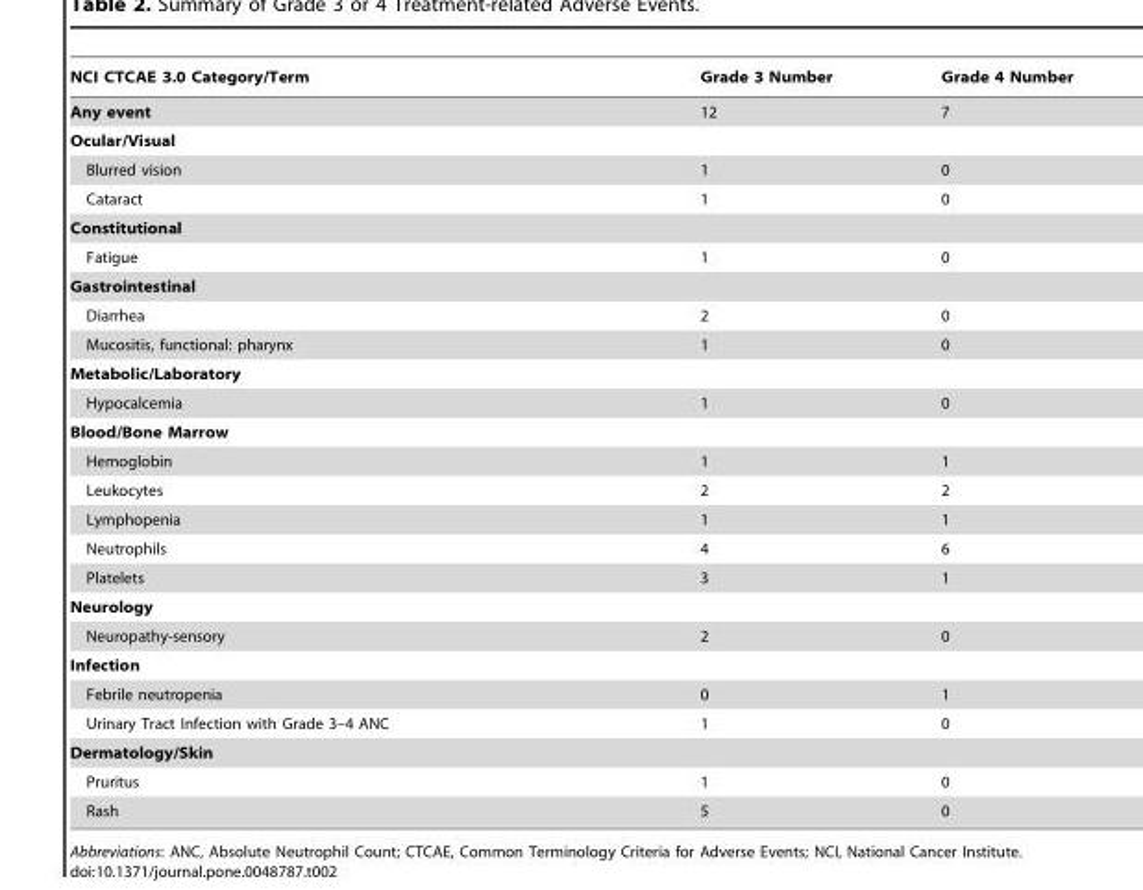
<table><thead><tr><td>NCI CTCAE 3.0 Category/Term</td><td>Grade 3 Number</td><td>Grade 4 Number</td></tr></thead><tbody><tr><td>Any event</td><td>12</td><td>7</td></tr><tr><td colspan="3">Ocular/Visual</td></tr><tr><td>Blurred vision</td><td>1</td><td>0</td></tr><tr><td>Cataract</td><td>1</td><td>0</td></tr><tr><td colspan="3">Constitutional</td></tr><tr><td>Fatigue</td><td>1</td><td>0</td></tr><tr><td colspan="3">Gastrointestinal</td></tr><tr><td>Diarrhea</td><td>2</td><td>0</td></tr><tr><td>Mucositis, functional: pharynx</td><td>1</td><td>0</td></tr><tr><td colspan="3">Metabolic/Laboratory</td></tr><tr><td>Hypocalcemia</td><td>1</td><td>0</td></tr><tr><td colspan="3">Blood/Bone Marrow</td></tr><tr><td>Hemoglobin</td><td>1</td><td>1</td></tr><tr><td>Leukocytes</td><td>2</td><td>2</td></tr><tr><td>Lymphopenia</td><td>1</td><td>1</td></tr><tr><td>Neutrophils</td><td>4</td><td>6</td></tr><tr><td>Platelets</td><td>3</td><td>1</td></tr><tr><td colspan="3">Neurology</td></tr><tr><td>Neuropathy-sensory</td><td>2</td><td>0</td></tr><tr><td colspan="3">Infection</td></tr><tr><td>Febrile neutropenia</td><td>0</td><td>1</td></tr><tr><td>Urinary Tract Infection with Grade 3–4 ANC</td><td>1</td><td>0</td></tr><tr><td colspan="3">Dermatology/Skin</td></tr><tr><td>Pruritus</td><td>1</td><td>0</td></tr><tr><td>Rash</td><td>5</td><td>0</td></tr></tbody></table>